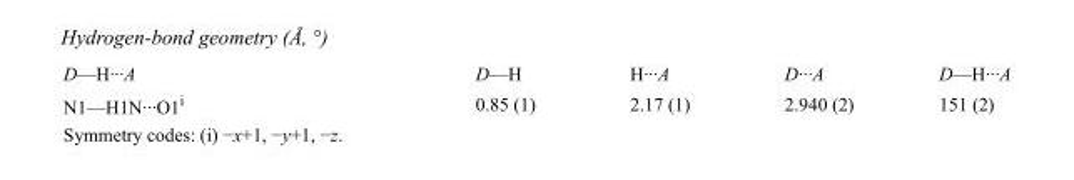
<table><tbody><tr><td>D—H···A</td><td>D—H</td><td>H···A</td><td>D···A</td><td>D—H···A</td></tr><tr><td>N1—H1N···O1<sup>i</sup></td><td>0.85 (1)</td><td>2.17 (1)</td><td>2.940 (2)</td><td>151 (2)</td></tr></tbody></table>